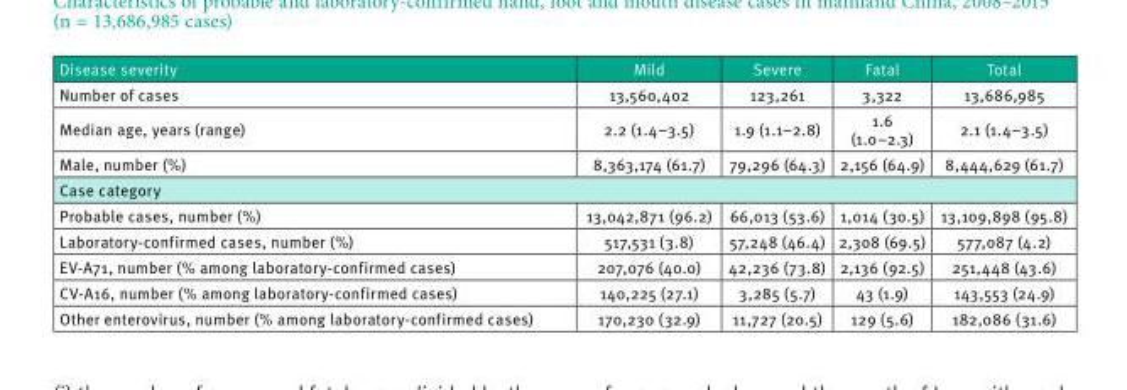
<table><thead><tr><td>Disease severity</td><td>Mild</td><td>Severe</td><td>Fatal</td><td>Total</td></tr></thead><tbody><tr><td>Number of cases</td><td>13,560,402</td><td>123,261</td><td>3,322</td><td>13,686,985</td></tr><tr><td>Median age, years (range)</td><td>2.2 (1.4–3.5)</td><td>1.9 (1.1–2.8)</td><td>1.6 (1.0–2.3)</td><td>2.1 (1.4–3.5)</td></tr><tr><td>Male, number (%)</td><td>8,363,174 (61.7)</td><td>79,296 (64.3)</td><td>2,156 (64.9)</td><td>8,444,629 (61.7)</td></tr><tr><td colspan="5">Case category</td></tr><tr><td>Probable cases, number (%)</td><td>13,042,871 (96.2)</td><td>66,013 (53.6)</td><td>1,014 (30.5)</td><td>13,109,898 (95.8)</td></tr><tr><td>Laboratory-confirmed cases, number (%)</td><td>517,531 (3.8)</td><td>57,248 (46.4)</td><td>2,308 (69.5)</td><td>577,087 (4.2)</td></tr><tr><td>EV-A71, number (% among laboratory-confirmed cases)</td><td>207,076 (40.0)</td><td>42,236 (73.8)</td><td>2,136 (92.5)</td><td>251,448 (43.6)</td></tr><tr><td>CV-A16, number (% among laboratory-confirmed cases)</td><td>140,225 (27.1)</td><td>3,285 (5.7)</td><td>43 (1.9)</td><td>143,553 (24.9)</td></tr><tr><td>Other enterovirus, number (% among laboratory-confirmed cases)</td><td>170,230 (32.9)</td><td>11,727 (20.5)</td><td>129 (5.6)</td><td>182,086 (31.6)</td></tr></tbody></table>